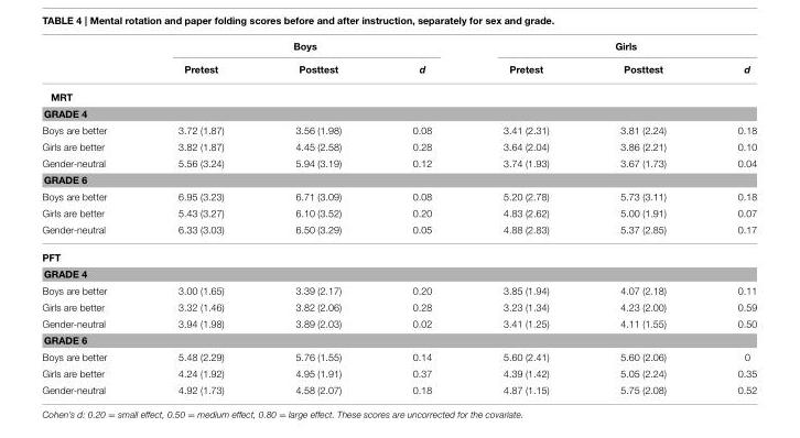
<table><thead><tr><td rowspan="2"></td><td colspan="3">Boys</td><td colspan="3">Girls</td></tr><tr><td>Pretest</td><td>Posttest</td><td>d</td><td>Pretest</td><td>Posttest</td><td>d</td></tr></thead><tbody><tr><td colspan="7">MRT</td></tr><tr><td colspan="7">GRADE 4</td></tr><tr><td>Boys are better</td><td>3.72 (1.87)</td><td>3.56 (1.98)</td><td>0.08</td><td>3.41 (2.31)</td><td>3.81 (2.24)</td><td>0.18</td></tr><tr><td>Girls are better</td><td>3.82 (1.87)</td><td>4.45 (2.58)</td><td>0.28</td><td>3.64 (2.04)</td><td>3.86 (2.21)</td><td>0.10</td></tr><tr><td>Gender-neutral</td><td>5.56 (3.24)</td><td>5.94 (3.19)</td><td>0.12</td><td>3.74 (1.93)</td><td>3.67 (1.73)</td><td>0.04</td></tr><tr><td colspan="7">GRADE 6</td></tr><tr><td>Boys are better</td><td>6.95 (3.23)</td><td>6.71 (3.09)</td><td>0.08</td><td>5.20 (2.78)</td><td>5.73 (3.11)</td><td>0.18</td></tr><tr><td>Girls are better</td><td>5.43 (3.27)</td><td>6.10 (3.52)</td><td>0.20</td><td>4.83 (2.62)</td><td>5.00 (1.91)</td><td>0.07</td></tr><tr><td>Gender-neutral</td><td>6.33 (3.03)</td><td>6.50 (3.29)</td><td>0.05</td><td>4.88 (2.83)</td><td>5.37 (2.85)</td><td>0.17</td></tr><tr><td colspan="7">PFT</td></tr><tr><td colspan="7">GRADE 4</td></tr><tr><td>Boys are better</td><td>3.00 (1.65)</td><td>3.39 (2.17)</td><td>0.20</td><td>3.85 (1.94)</td><td>4.07 (2.18)</td><td>0.11</td></tr><tr><td>Girls are better</td><td>3.32 (1.46)</td><td>3.82 (2.06)</td><td>0.28</td><td>3.23 (1.34)</td><td>4.23 (2.00)</td><td>0.59</td></tr><tr><td>Gender-neutral</td><td>3.94 (1.98)</td><td>3.89 (2.03)</td><td>0.02</td><td>3.41 (1.25)</td><td>4.11 (1.55)</td><td>0.50</td></tr><tr><td colspan="7">GRADE 6</td></tr><tr><td>Boys are better</td><td>5.48 (2.29)</td><td>5.76 (1.55)</td><td>0.14</td><td>5.60 (2.41)</td><td>5.60 (2.06)</td><td>0</td></tr><tr><td>Girls are better</td><td>4.24 (1.92)</td><td>4.95 (1.91)</td><td>0.37</td><td>4.39 (1.42)</td><td>5.05 (2.24)</td><td>0.35</td></tr><tr><td>Gender-neutral</td><td>4.92 (1.73)</td><td>4.58 (2.07)</td><td>0.18</td><td>4.87 (1.15)</td><td>5.75 (2.08)</td><td>0.52</td></tr></tbody></table>